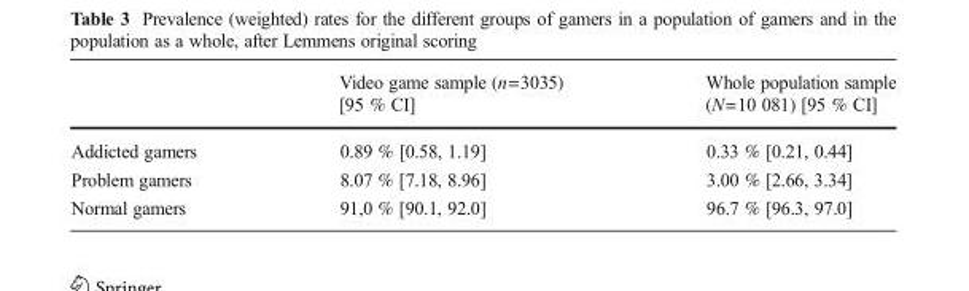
<table><thead><tr><td></td><td>Video game sample (n=3035) [95 % CI]</td><td>Whole population sample (N=10 081) [95 % CI]</td></tr></thead><tbody><tr><td>Addicted gamers</td><td>0.89 % [0.58, 1.19]</td><td>0.33 % [0.21, 0.44]</td></tr><tr><td>Problem gamers</td><td>8.07 % [7.18, 8.96]</td><td>3.00 % [2.66, 3.34]</td></tr><tr><td>Normal gamers</td><td>91,0 % [90.1, 92.0]</td><td>96.7 % [96.3, 97.0]</td></tr></tbody></table>